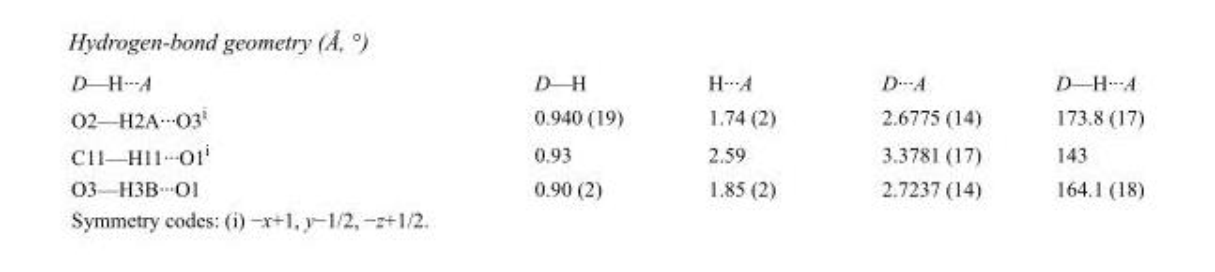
<table><tbody><tr><td>D—H···A</td><td>D—H</td><td>H···A</td><td>D···A</td><td>D—H···A</td></tr><tr><td>O2—H2A···O3<sup>i</sup></td><td>0.940 (19)</td><td>1.74 (2)</td><td>2.6775 (14)</td><td>173.8 (17)</td></tr><tr><td>C11—H11···O1<sup>i</sup></td><td>0.93</td><td>2.59</td><td>3.3781 (17)</td><td>143</td></tr><tr><td>O3—H3B···O1</td><td>0.90 (2)</td><td>1.85 (2)</td><td>2.7237 (14)</td><td>164.1 (18)</td></tr></tbody></table>